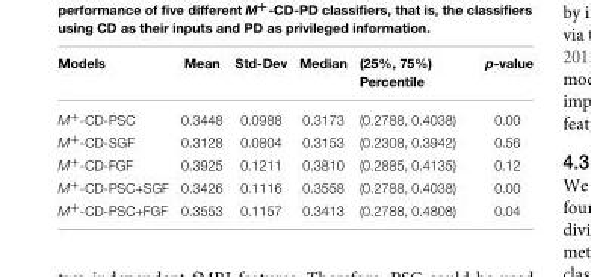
<table><thead><tr><td>Models</td><td>Mean</td><td>Std-Dev</td><td>Median</td><td>(25%, 75%) Percentile</td><td>p-value</td></tr></thead><tbody><tr><td>M<sup>+</sup>-CD-PSC</td><td>0.3448</td><td>0.0988</td><td>0.3173</td><td>(0.2788, 0.4038)</td><td>0.00</td></tr><tr><td>M<sup>+</sup>-CD-SGF</td><td>0.3128</td><td>0.0804</td><td>0.3153</td><td>(0.2308, 0.3942)</td><td>0.56</td></tr><tr><td>M<sup>+</sup>-CD-FGF</td><td>0.3925</td><td>0.1211</td><td>0.3810</td><td>(0.2885, 0.4135)</td><td>0.12</td></tr><tr><td>M<sup>+</sup>-CD-PSC+SGF</td><td>0.3426</td><td>0.1116</td><td>0.3558</td><td>(0.2788, 0.4038)</td><td>0.00</td></tr><tr><td>M<sup>+</sup>-CD-PSC+FGF</td><td>0.3553</td><td>0.1157</td><td>0.3413</td><td>(0.2788, 0.4808)</td><td>0.04</td></tr></tbody></table>